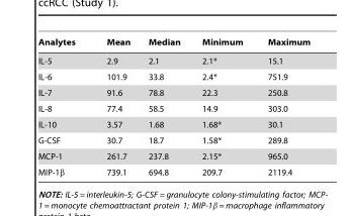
<table><thead><tr><td>Analytes</td><td>Mean</td><td>Median</td><td>Minimum</td><td>Maximum</td></tr></thead><tbody><tr><td>IL-5</td><td>2.9</td><td>2.1</td><td>2.1*</td><td>15.1</td></tr><tr><td>IL-6</td><td>101.9</td><td>33.8</td><td>2.4*</td><td>751.9</td></tr><tr><td>IL-7</td><td>91.6</td><td>78.8</td><td>22.3</td><td>250.8</td></tr><tr><td>IL-8</td><td>77.4</td><td>58.5</td><td>14.9</td><td>303.0</td></tr><tr><td>IL-10</td><td>3.57</td><td>1.68</td><td>1.68*</td><td>30.1</td></tr><tr><td>G-CSF</td><td>30.7</td><td>18.7</td><td>1.58*</td><td>289.8</td></tr><tr><td>MCP-1</td><td>261.7</td><td>237.8</td><td>2.15*</td><td>965.0</td></tr><tr><td>MIP-1β</td><td>739.1</td><td>694.8</td><td>209.7</td><td>2119.4</td></tr></tbody></table>